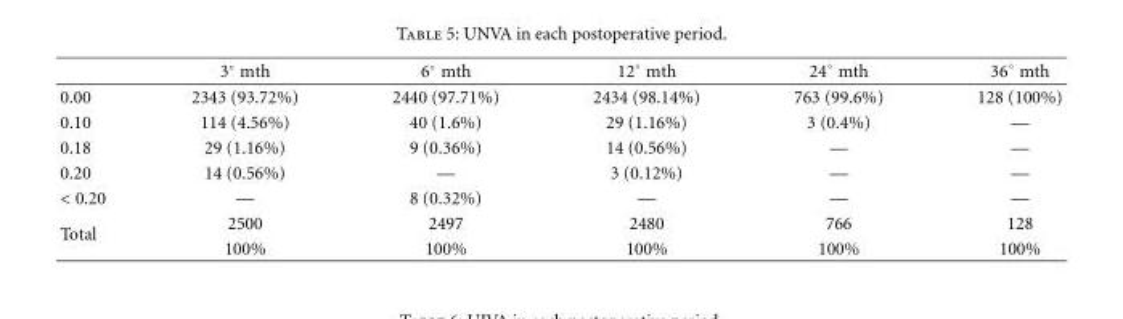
<table><thead><tr><td></td><td>3◦ mth</td><td>6◦ mth</td><td>12◦ mth</td><td>24◦ mth</td><td>36◦ mth</td></tr></thead><tbody><tr><td>0.00</td><td>2343 (93.72%)</td><td>2440 (97.71%)</td><td>2434 (98.14%)</td><td>763 (99.6%)</td><td>128 (100%)</td></tr><tr><td>0.10</td><td>114 (4.56%)</td><td>40 (1.6%)</td><td>29 (1.16%)</td><td>3 (0.4%)</td><td>—</td></tr><tr><td>0.18</td><td>29 (1.16%)</td><td>9 (0.36%)</td><td>14 (0.56%)</td><td>—</td><td>—</td></tr><tr><td>0.20</td><td>14 (0.56%)</td><td>—</td><td>3 (0.12%)</td><td>—</td><td>—</td></tr><tr><td>&lt; 0.20</td><td>—</td><td>8 (0.32%)</td><td>—</td><td>—</td><td>—</td></tr><tr><td rowspan="2">Total</td><td>2500</td><td>2497</td><td>2480</td><td>766</td><td>128</td></tr><tr><td>100%</td><td>100%</td><td>100%</td><td>100%</td><td>100%</td></tr></tbody></table>